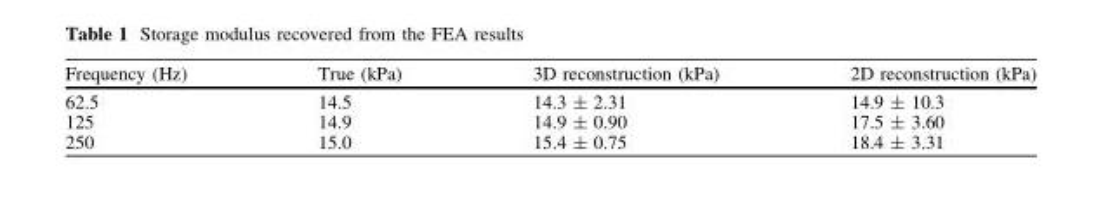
<table><thead><tr><td>Frequency (Hz)</td><td>True (kPa)</td><td>3D reconstruction (kPa)</td><td>2D reconstruction (kPa)</td></tr></thead><tbody><tr><td>62.5</td><td>14.5</td><td>14.3 ± 2.31</td><td>14.9 ± 10.3</td></tr><tr><td>125</td><td>14.9</td><td>14.9 ± 0.90</td><td>17.5 ± 3.60</td></tr><tr><td>250</td><td>15.0</td><td>15.4 ± 0.75</td><td>18.4 ± 3.31</td></tr></tbody></table>